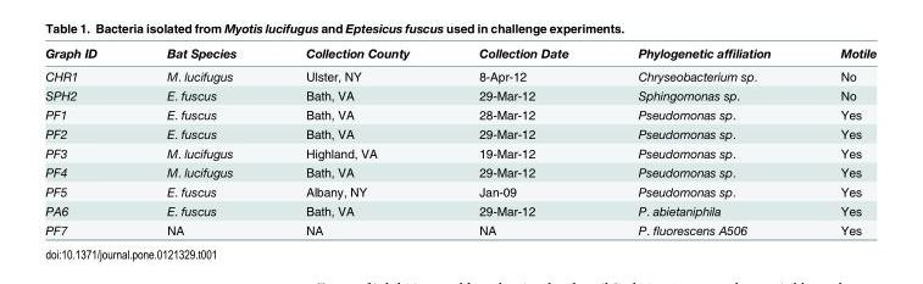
<table><thead><tr><td>Graph ID</td><td>Bat Species</td><td>Collection County</td><td>Collection Date</td><td>Phylogenetic affiliation</td><td>Motile</td></tr></thead><tbody><tr><td>CHR1</td><td>M. lucifugus</td><td>Ulster, NY</td><td>8-Apr-12</td><td>Chryseobacterium sp.</td><td>No</td></tr><tr><td>SPH2</td><td>E. fuscus</td><td>Bath, VA</td><td>29-Mar-12</td><td>Sphingomonas sp.</td><td>No</td></tr><tr><td>PF1</td><td>E. fuscus</td><td>Bath, VA</td><td>28-Mar-12</td><td>Pseudomonas sp.</td><td>Yes</td></tr><tr><td>PF2</td><td>E. fuscus</td><td>Bath, VA</td><td>29-Mar-12</td><td>Pseudomonas sp.</td><td>Yes</td></tr><tr><td>PF3</td><td>M. lucifugus</td><td>Highland, VA</td><td>19-Mar-12</td><td>Pseudomonas sp.</td><td>Yes</td></tr><tr><td>PF4</td><td>M. lucifugus</td><td>Bath, VA</td><td>29-Mar-12</td><td>Pseudomonas sp.</td><td>Yes</td></tr><tr><td>PF5</td><td>E. fuscus</td><td>Albany, NY</td><td>Jan-09</td><td>Pseudomonas sp.</td><td>Yes</td></tr><tr><td>PA6</td><td>E. fuscus</td><td>Bath, VA</td><td>29-Mar-12</td><td>P. abietaniphila</td><td>Yes</td></tr><tr><td>PF7</td><td>NA</td><td>NA</td><td>NA</td><td>P. fluorescens A506</td><td>Yes</td></tr></tbody></table>